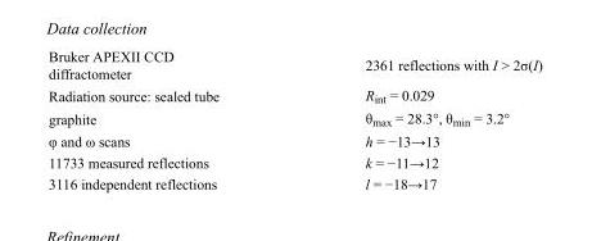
<table><tbody><tr><td>Bruker APEXII CCD diffractometer</td><td>2361 reflections with I &gt; 2σ(I)</td></tr><tr><td>Radiation source: sealed tube</td><td>R<sub>int</sub> = 0.029</td></tr><tr><td>graphite</td><td>θ<sub>max</sub> = 28.3°, θ<sub>min</sub> = 3.2°</td></tr><tr><td>φ and ω scans</td><td>h = −13→13</td></tr><tr><td>11733 measured reflections</td><td>k = −11→12</td></tr><tr><td>3116 independent reflections</td><td>l = −18→17</td></tr></tbody></table>